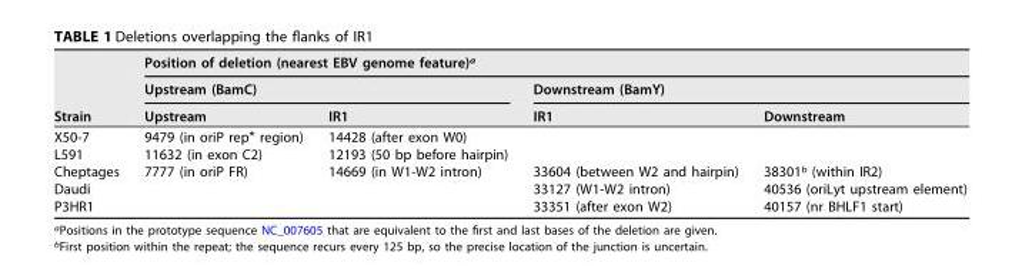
<table><thead><tr><td rowspan="3">Strain</td><td colspan="4">Position of deletion (nearest EBV genome feature)<sup>a</sup></td></tr><tr><td colspan="2">Upstream (BamC)</td><td colspan="2">Downstream (BamY)</td></tr><tr><td>Upstream</td><td>IR1</td><td>IR1</td><td>Downstream</td></tr></thead><tbody><tr><td>X50-7</td><td>9479 (in oriP rep* region)</td><td>14428 (after exon W0)</td><td></td><td></td></tr><tr><td>L591</td><td>11632 (in exon C2)</td><td>12193 (50 bp before hairpin)</td><td></td><td></td></tr><tr><td>Cheptages</td><td>7777 (in oriP FR)</td><td>14669 (in W1-W2 intron)</td><td>33604 (between W2 and hairpin)</td><td>38301<sup>b</sup> (within IR2)</td></tr><tr><td>Daudi</td><td></td><td></td><td>33127 (W1-W2 intron)</td><td>40536 (oriLyt upstream element)</td></tr><tr><td>P3HR1</td><td></td><td></td><td>33351 (after exon W2)</td><td>40157 (nr BHLF1 start)</td></tr></tbody></table>